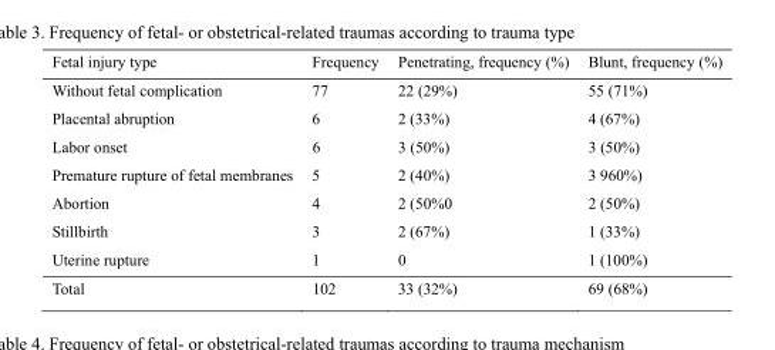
<table><thead><tr><td>Fetal injury type</td><td>Frequency</td><td>Penetrating, frequency (%)</td><td>Blunt, frequency (%)</td></tr></thead><tbody><tr><td>Without fetal complication</td><td>77</td><td>22 (29%)</td><td>55 (71%)</td></tr><tr><td>Placental abruption</td><td>6</td><td>2 (33%)</td><td>4 (67%)</td></tr><tr><td>Labor onset</td><td>6</td><td>3 (50%)</td><td>3 (50%)</td></tr><tr><td>Premature rupture of fetal membranes</td><td>5</td><td>2 (40%)</td><td>3 960%)</td></tr><tr><td>Abortion</td><td>4</td><td>2 (50%0</td><td>2 (50%)</td></tr><tr><td>Stillbirth</td><td>3</td><td>2 (67%)</td><td>1 (33%)</td></tr><tr><td>Uterine rupture</td><td>1</td><td>0</td><td>1 (100%)</td></tr><tr><td>Total</td><td>102</td><td>33 (32%)</td><td>69 (68%)</td></tr></tbody></table>